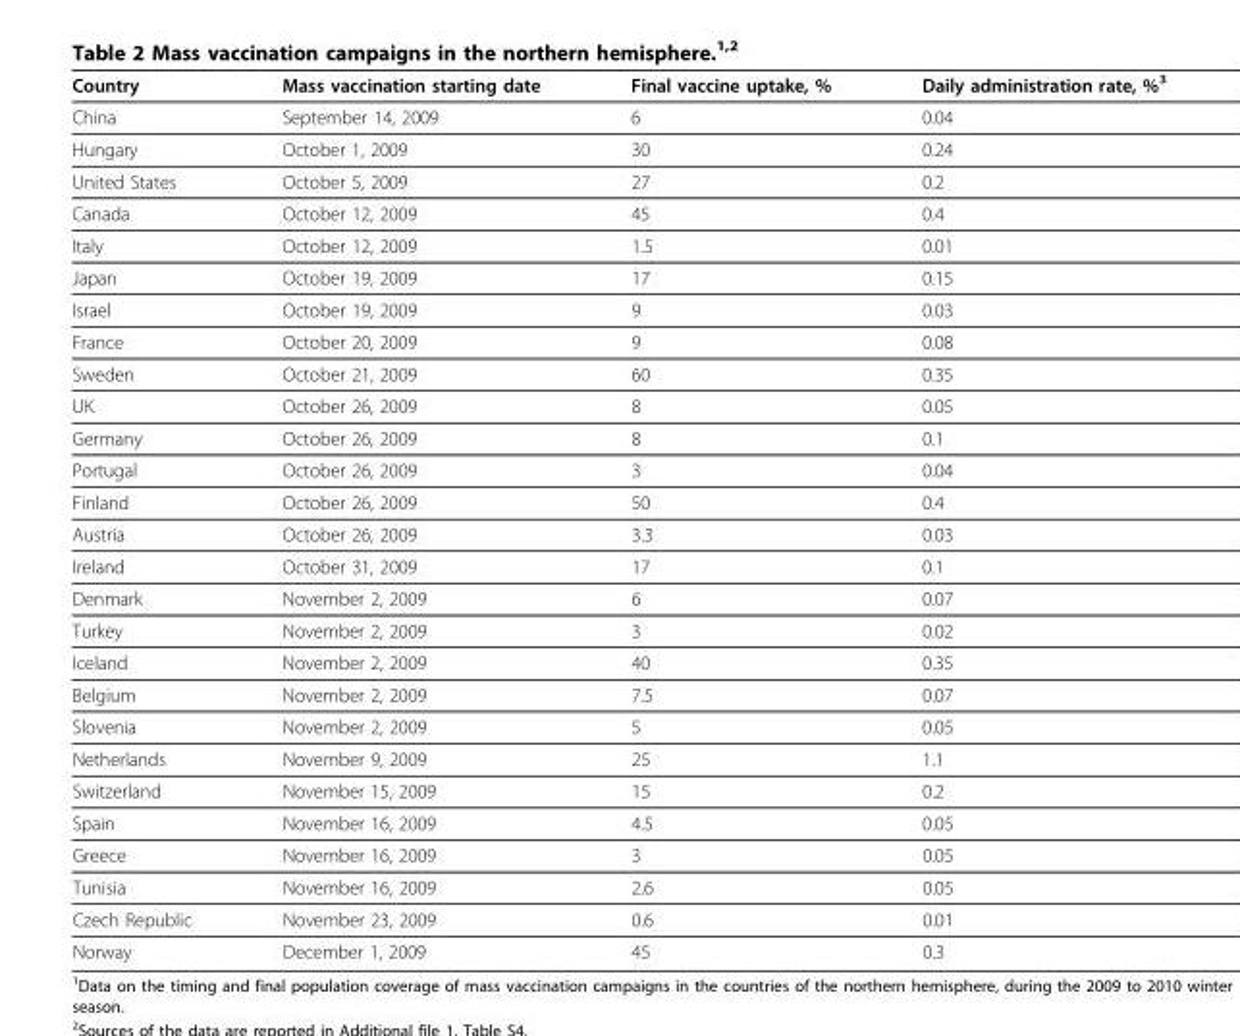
<table><thead><tr><td>Country</td><td>Mass vaccination starting date</td><td>Final vaccine uptake, %</td><td>Daily administration rate, %3</td></tr></thead><tbody><tr><td>China</td><td>September 14, 2009</td><td>6</td><td>0.04</td></tr><tr><td>Hungary</td><td>October 1, 2009</td><td>30</td><td>0.24</td></tr><tr><td>United States</td><td>October 5, 2009</td><td>27</td><td>0.2</td></tr><tr><td>Canada</td><td>October 12, 2009</td><td>45</td><td>0.4</td></tr><tr><td>Italy</td><td>October 12, 2009</td><td>1.5</td><td>0.01</td></tr><tr><td>Japan</td><td>October 19, 2009</td><td>17</td><td>0.15</td></tr><tr><td>Israel</td><td>October 19, 2009</td><td>9</td><td>0.03</td></tr><tr><td>France</td><td>October 20, 2009</td><td>9</td><td>0.08</td></tr><tr><td>Sweden</td><td>October 21, 2009</td><td>60</td><td>0.35</td></tr><tr><td>UK</td><td>October 26, 2009</td><td>8</td><td>0.05</td></tr><tr><td>Germany</td><td>October 26, 2009</td><td>8</td><td>0.1</td></tr><tr><td>Portugal</td><td>October 26, 2009</td><td>3</td><td>0.04</td></tr><tr><td>Finland</td><td>October 26, 2009</td><td>50</td><td>0.4</td></tr><tr><td>Austria</td><td>October 26, 2009</td><td>3.3</td><td>0.03</td></tr><tr><td>Ireland</td><td>October 31, 2009</td><td>17</td><td>0.1</td></tr><tr><td>Denmark</td><td>November 2, 2009</td><td>6</td><td>0.07</td></tr><tr><td>Turkey</td><td>November 2, 2009</td><td>3</td><td>0.02</td></tr><tr><td>Iceland</td><td>November 2, 2009</td><td>40</td><td>0.35</td></tr><tr><td>Belgium</td><td>November 2, 2009</td><td>7.5</td><td>0.07</td></tr><tr><td>Slovenia</td><td>November 2, 2009</td><td>5</td><td>0.05</td></tr><tr><td>Netherlands</td><td>November 9, 2009</td><td>25</td><td>1.1</td></tr><tr><td>Switzerland</td><td>November 15, 2009</td><td>15</td><td>0.2</td></tr><tr><td>Spain</td><td>November 16, 2009</td><td>4.5</td><td>0.05</td></tr><tr><td>Greece</td><td>November 16, 2009</td><td>3</td><td>0.05</td></tr><tr><td>Tunisia</td><td>November 16, 2009</td><td>2.6</td><td>0.05</td></tr><tr><td>Czech Republic</td><td>November 23, 2009</td><td>0.6</td><td>0.01</td></tr><tr><td>Norway</td><td>December 1, 2009</td><td>45</td><td>0.3</td></tr></tbody></table>